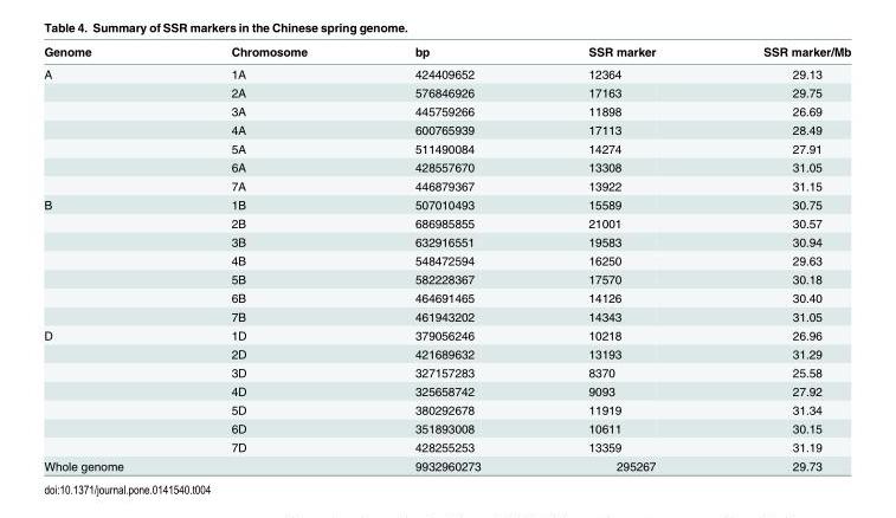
<table><thead><tr><td>Genome</td><td>Chromosome</td><td>bp</td><td>SSR marker</td><td>SSR marker/Mb</td></tr></thead><tbody><tr><td rowspan="7">A</td><td>1A</td><td>424409652</td><td>12364</td><td>29.13</td></tr><tr><td>2A</td><td>576846926</td><td>17163</td><td>29.75</td></tr><tr><td>3A</td><td>445759266</td><td>11898</td><td>26.69</td></tr><tr><td>4A</td><td>600765939</td><td>17113</td><td>28.49</td></tr><tr><td>5A</td><td>511490084</td><td>14274</td><td>27.91</td></tr><tr><td>6A</td><td>428557670</td><td>13308</td><td>31.05</td></tr><tr><td>7A</td><td>446879367</td><td>13922</td><td>31.15</td></tr><tr><td rowspan="7">B</td><td>1B</td><td>507010493</td><td>15589</td><td>30.75</td></tr><tr><td>2B</td><td>686985855</td><td>21001</td><td>30.57</td></tr><tr><td>3B</td><td>632916551</td><td>19583</td><td>30.94</td></tr><tr><td>4B</td><td>548472594</td><td>16250</td><td>29.63</td></tr><tr><td>5B</td><td>582228367</td><td>17570</td><td>30.18</td></tr><tr><td>6B</td><td>464691465</td><td>14126</td><td>30.40</td></tr><tr><td>7B</td><td>461943202</td><td>14343</td><td>31.05</td></tr><tr><td rowspan="7">D</td><td>1D</td><td>379056246</td><td>10218</td><td>26.96</td></tr><tr><td>2D</td><td>421689632</td><td>13193</td><td>31.29</td></tr><tr><td>3D</td><td>327157283</td><td>8370</td><td>25.58</td></tr><tr><td>4D</td><td>325658742</td><td>9093</td><td>27.92</td></tr><tr><td>5D</td><td>380292678</td><td>11919</td><td>31.34</td></tr><tr><td>6D</td><td>351893008</td><td>10611</td><td>30.15</td></tr><tr><td>7D</td><td>428255253</td><td>13359</td><td>31.19</td></tr><tr><td>Whole genome</td><td></td><td>9932960273</td><td>295267</td><td>29.73</td></tr></tbody></table>